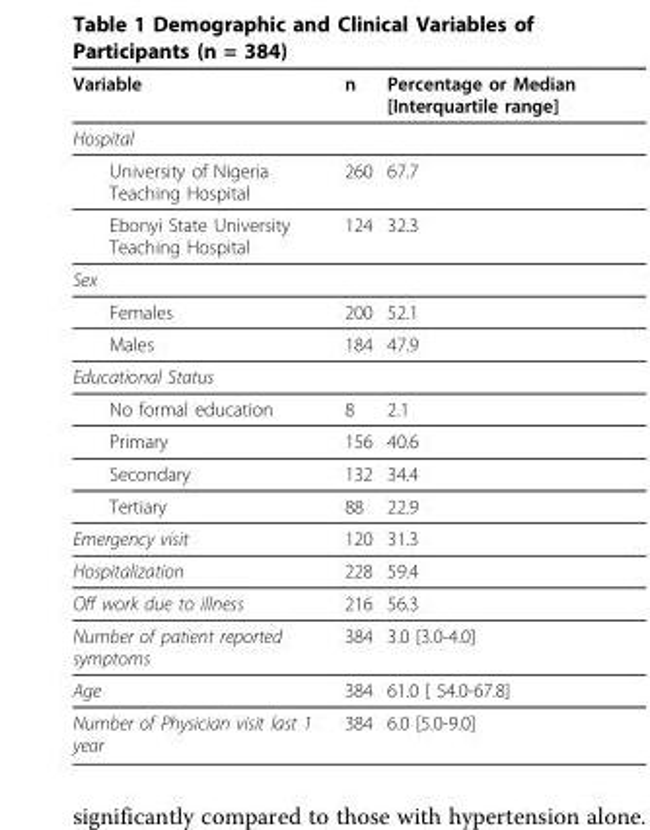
<table><thead><tr><td>Variable</td><td>n</td><td>Percentage or Median [Interquartile range]</td></tr></thead><tbody><tr><td colspan="3">Hospital</td></tr><tr><td>University of Nigeria Teaching Hospital</td><td>260</td><td>67.7</td></tr><tr><td>Ebonyi State University Teaching Hospital</td><td>124</td><td>32.3</td></tr><tr><td colspan="3">Sex</td></tr><tr><td>Females</td><td>200</td><td>52.1</td></tr><tr><td>Males</td><td>184</td><td>47.9</td></tr><tr><td colspan="3">Educational Status</td></tr><tr><td>No formal education</td><td>8</td><td>2.1</td></tr><tr><td>Primary</td><td>156</td><td>40.6</td></tr><tr><td>Secondary</td><td>132</td><td>34.4</td></tr><tr><td>Tertiary</td><td>88</td><td>22.9</td></tr><tr><td>Emergency visit</td><td>120</td><td>31.3</td></tr><tr><td>Hospitalization</td><td>228</td><td>59.4</td></tr><tr><td>Off work due to illness</td><td>216</td><td>56.3</td></tr><tr><td>Number of patient reported symptoms</td><td>384</td><td>3.0 [3.0-4.0]</td></tr><tr><td>Age</td><td>384</td><td>61.0 [ 54.0-67.8]</td></tr><tr><td>Number of Physician visit last 1 year</td><td>384</td><td>6.0 [5.0-9.0]</td></tr></tbody></table>